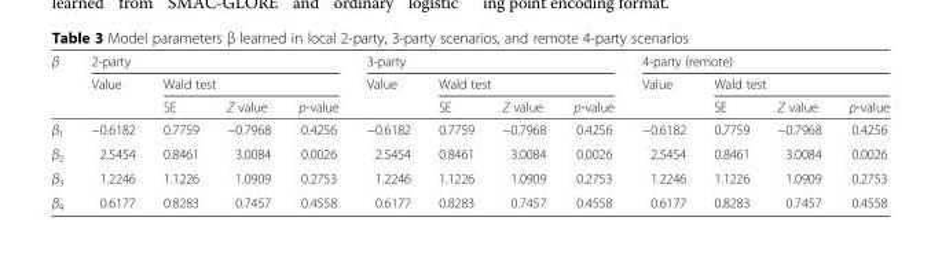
<table><thead><tr><td rowspan="3">β</td><td colspan="4">2-party</td><td colspan="4">3-party</td><td colspan="4">4-party (remote)</td></tr><tr><td rowspan="2">Value</td><td colspan="3">Wald test</td><td rowspan="2">Value</td><td colspan="3">Wald test</td><td rowspan="2">Value</td><td colspan="3">Wald test</td></tr><tr><td>SE</td><td>Z value</td><td>p-value</td><td>SE</td><td>Z value</td><td>p-value</td><td>SE</td><td>Z value</td><td>p-value</td></tr></thead><tbody><tr><td>β<sub>1</sub></td><td>−0.6182</td><td>0.7759</td><td>−0.7968</td><td>0.4256</td><td>−0.6182</td><td>0.7759</td><td>−0.7968</td><td>0.4256</td><td>−0.6182</td><td>0.7759</td><td>−0.7968</td><td>0.4256</td></tr><tr><td>β<sub>2</sub></td><td>2.5454</td><td>0.8461</td><td>3.0084</td><td>0.0026</td><td>2.5454</td><td>0.8461</td><td>3.0084</td><td>0.0026</td><td>2.5454</td><td>0.8461</td><td>3.0084</td><td>0.0026</td></tr><tr><td>β<sub>3</sub></td><td>1.2246</td><td>1.1226</td><td>1.0909</td><td>0.2753</td><td>1.2246</td><td>1.1226</td><td>1.0909</td><td>0.2753</td><td>1.2246</td><td>1.1226</td><td>1.0909</td><td>0.2753</td></tr><tr><td>β<sub>4</sub></td><td>0.6177</td><td>0.8283</td><td>0.7457</td><td>0.4558</td><td>0.6177</td><td>0.8283</td><td>0.7457</td><td>0.4558</td><td>0.6177</td><td>0.8283</td><td>0.7457</td><td>0.4558</td></tr></tbody></table>